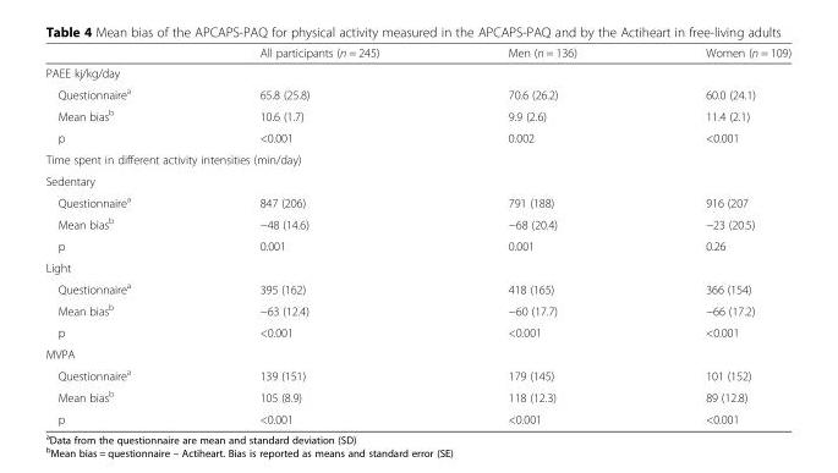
<table><thead><tr><td></td><td>All participants (n = 245)</td><td>Men (n = 136)</td><td>Women (n = 109)</td></tr></thead><tbody><tr><td colspan="4">PAEE kj/kg/day</td></tr><tr><td>Questionnaire<sup>a</sup></td><td>65.8 (25.8)</td><td>70.6 (26.2)</td><td>60.0 (24.1)</td></tr><tr><td>Mean bias<sup>b</sup></td><td>10.6 (1.7)</td><td>9.9 (2.6)</td><td>11.4 (2.1)</td></tr><tr><td>p</td><td>&lt;0.001</td><td>0.002</td><td>&lt;0.001</td></tr><tr><td colspan="4">Time spent in different activity intensities (min/day)</td></tr><tr><td colspan="4">Sedentary</td></tr><tr><td>Questionnaire<sup>a</sup></td><td>847 (206)</td><td>791 (188)</td><td>916 (207</td></tr><tr><td>Mean bias<sup>b</sup></td><td>−48 (14.6)</td><td>−68 (20.4)</td><td>−23 (20.5)</td></tr><tr><td>p</td><td>0.001</td><td>0.001</td><td>0.26</td></tr><tr><td colspan="4">Light</td></tr><tr><td>Questionnaire<sup>a</sup></td><td>395 (162)</td><td>418 (165)</td><td>366 (154)</td></tr><tr><td>Mean bias<sup>b</sup></td><td>−63 (12.4)</td><td>−60 (17.7)</td><td>−66 (17.2)</td></tr><tr><td>p</td><td>&lt;0.001</td><td>&lt;0.001</td><td>&lt;0.001</td></tr><tr><td colspan="4">MVPA</td></tr><tr><td>Questionnaire<sup>a</sup></td><td>139 (151)</td><td>179 (145)</td><td>101 (152)</td></tr><tr><td>Mean bias<sup>b</sup></td><td>105 (8.9)</td><td>118 (12.3)</td><td>89 (12.8)</td></tr><tr><td>p</td><td>&lt;0.001</td><td>&lt;0.001</td><td>&lt;0.001</td></tr></tbody></table>